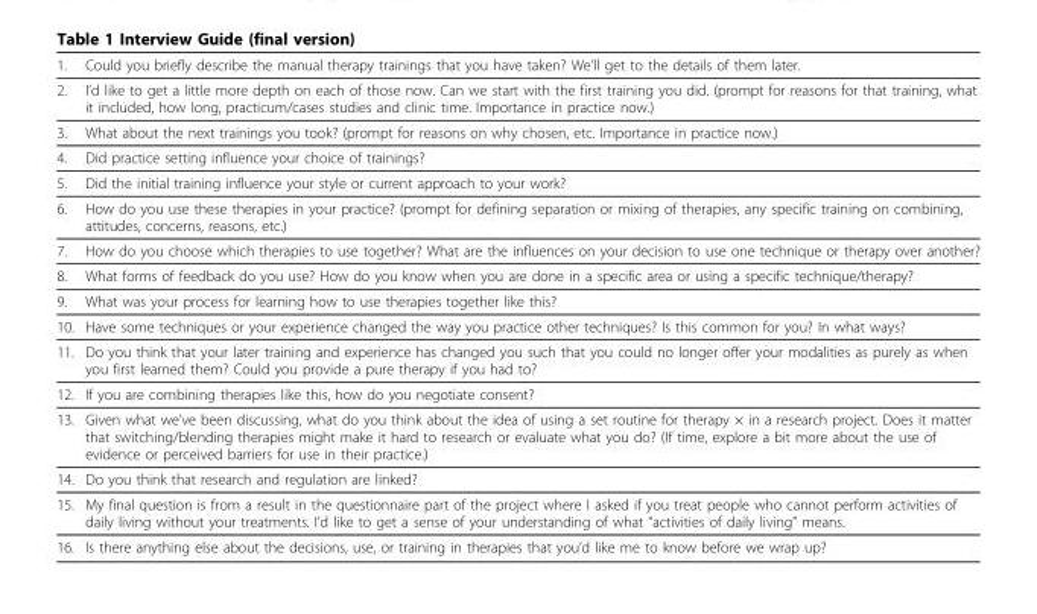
<table><thead><tr><td>1.</td><td>Could you briefly describe the manual therapy trainings that you have taken? We’ll get to the details of them later.</td></tr></thead><tbody><tr><td>2.</td><td>I’d like to get a little more depth on each of those now. Can we start with the first training you did. (prompt for reasons for that training, what it included, how long, practicum/cases studies and clinic time. Importance in practice now.)</td></tr><tr><td>3.</td><td>What about the next trainings you took? (prompt for reasons on why chosen, etc. Importance in practice now.)</td></tr><tr><td>4.</td><td>Did practice setting influence your choice of trainings?</td></tr><tr><td>5.</td><td>Did the initial training influence your style or current approach to your work?</td></tr><tr><td>6.</td><td>How do you use these therapies in your practice? (prompt for defining separation or mixing of therapies, any specific training on combining, attitudes, concerns, reasons, etc.)</td></tr><tr><td>7.</td><td>How do you choose which therapies to use together? What are the influences on your decision to use one technique or therapy over another?</td></tr><tr><td>8.</td><td>What forms of feedback do you use? How do you know when you are done in a specific area or using a specific technique/therapy?</td></tr><tr><td>9.</td><td>What was your process for learning how to use therapies together like this?</td></tr><tr><td>10.</td><td>Have some techniques or your experience changed the way you practice other techniques? Is this common for you? In what ways?</td></tr><tr><td>11.</td><td>Do you think that your later training and experience has changed you such that you could no longer offer your modalities as purely as when you first learned them? Could you provide a pure therapy if you had to?</td></tr><tr><td>12.</td><td>If you are combining therapies like this, how do you negotiate consent?</td></tr><tr><td>13.</td><td>Given what we’ve been discussing, what do you think about the idea of using a set routine for therapy × in a research project. Does it matter that switching/blending therapies might make it hard to research or evaluate what you do? (If time, explore a bit more about the use of evidence or perceived barriers for use in their practice.)</td></tr><tr><td>14.</td><td>Do you think that research and regulation are linked?</td></tr><tr><td>15.</td><td>My final question is from a result in the questionnaire part of the project where I asked if you treat people who cannot perform activities of daily living without your treatments. I’d like to get a sense of your understanding of what “activities of daily living” means.</td></tr><tr><td>16.</td><td>Is there anything else about the decisions, use, or training in therapies that you’d like me to know before we wrap up?</td></tr></tbody></table>